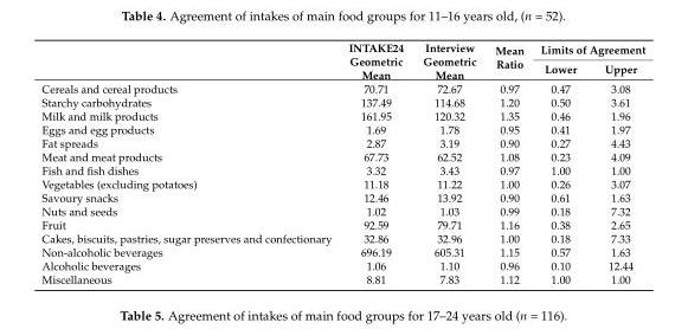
<table><thead><tr><td rowspan="2"></td><td rowspan="2">INTAKE24 Geometric Mean</td><td rowspan="2">Interview Geometric Mean</td><td rowspan="2">Mean Ratio</td><td colspan="2">Limits of Agreement</td></tr><tr><td>Lower</td><td>Upper</td></tr></thead><tbody><tr><td>Cereals and cereal products</td><td>70.71</td><td>72.67</td><td>0.97</td><td>0.47</td><td>3.08</td></tr><tr><td>Starchy carbohydrates</td><td>137.49</td><td>114.68</td><td>1.20</td><td>0.50</td><td>3.61</td></tr><tr><td>Milk and milk products</td><td>161.95</td><td>120.32</td><td>1.35</td><td>0.46</td><td>1.96</td></tr><tr><td>Eggs and egg products</td><td>1.69</td><td>1.78</td><td>0.95</td><td>0.41</td><td>1.97</td></tr><tr><td>Fat spreads</td><td>2.87</td><td>3.19</td><td>0.90</td><td>0.27</td><td>4.43</td></tr><tr><td>Meat and meat products</td><td>67.73</td><td>62.52</td><td>1.08</td><td>0.23</td><td>4.09</td></tr><tr><td>Fish and fish dishes</td><td>3.32</td><td>3.43</td><td>0.97</td><td>1.00</td><td>1.00</td></tr><tr><td>Vegetables (excluding potatoes)</td><td>11.18</td><td>11.22</td><td>1.00</td><td>0.26</td><td>3.07</td></tr><tr><td>Savoury snacks</td><td>12.46</td><td>13.92</td><td>0.90</td><td>0.61</td><td>1.63</td></tr><tr><td>Nuts and seeds</td><td>1.02</td><td>1.03</td><td>0.99</td><td>0.18</td><td>7.32</td></tr><tr><td>Fruit</td><td>92.59</td><td>79.71</td><td>1.16</td><td>0.38</td><td>2.65</td></tr><tr><td>Cakes, biscuits, pastries, sugar preserves and confectionary</td><td>32.86</td><td>32.96</td><td>1.00</td><td>0.18</td><td>7.33</td></tr><tr><td>Non-alcoholic beverages</td><td>696.19</td><td>605.31</td><td>1.15</td><td>0.57</td><td>1.63</td></tr><tr><td>Alcoholic beverages</td><td>1.06</td><td>1.10</td><td>0.96</td><td>0.10</td><td>12.44</td></tr><tr><td>Miscellaneous</td><td>8.81</td><td>7.83</td><td>1.12</td><td>1.00</td><td>1.00</td></tr></tbody></table>